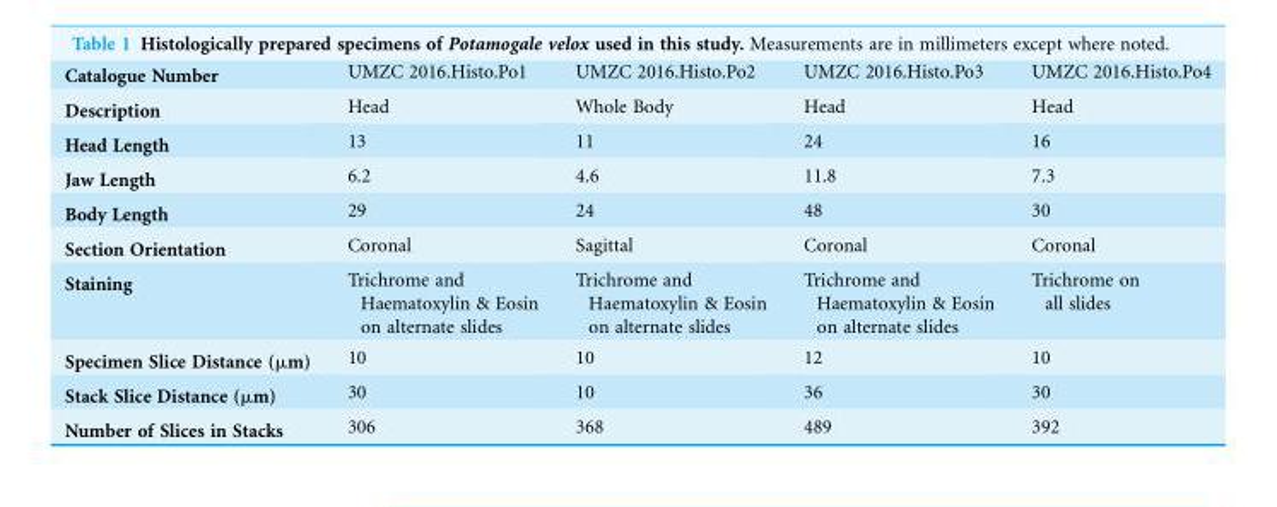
<table><tbody><tr><td>Catalogue Number</td><td>UMZC 2016.Histo.Po1</td><td>UMZC 2016.Histo.Po2</td><td>UMZC 2016.Histo.Po3</td><td>UMZC 2016.Histo.Po4</td></tr><tr><td>Description</td><td>Head</td><td>Whole Body</td><td>Head</td><td>Head</td></tr><tr><td>Head Length</td><td>13</td><td>11</td><td>24</td><td>16</td></tr><tr><td>Jaw Length</td><td>6.2</td><td>4.6</td><td>11.8</td><td>7.3</td></tr><tr><td>Body Length</td><td>29</td><td>24</td><td>48</td><td>30</td></tr><tr><td>Section Orientation</td><td>Coronal</td><td>Sagittal</td><td>Coronal</td><td>Coronal</td></tr><tr><td>Staining</td><td>Trichrome and Haematoxylin &amp; Eosin on alternate slides</td><td>Trichrome and Haematoxylin &amp; Eosin on alternate slides</td><td>Trichrome and Haematoxylin &amp; Eosin on alternate slides</td><td>Trichrome on all slides</td></tr><tr><td>Specimen Slice Distance (μm)</td><td>10</td><td>10</td><td>12</td><td>10</td></tr><tr><td>Stack Slice Distance (μm)</td><td>30</td><td>10</td><td>36</td><td>30</td></tr><tr><td>Number of Slices in Stacks</td><td>306</td><td>368</td><td>489</td><td>392</td></tr></tbody></table>